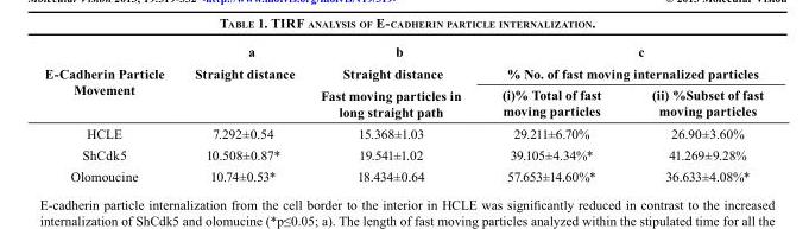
<table><thead><tr><td rowspan="2">E-Cadherin Particle Movement</td><td rowspan="2">a Straight distance</td><td rowspan="2">b Straight distance Fast moving particles in long straight path</td><td colspan="2">c % No. of fast moving internalized particles</td></tr><tr><td>(i)% Total of fast moving particles</td><td>(ii) %Subset of fast moving particles</td></tr></thead><tbody><tr><td>HCLE</td><td>7.292±0.54</td><td>15.368±1.03</td><td>29.211±6.70%</td><td>26.90±3.60%</td></tr><tr><td>ShCdk5</td><td>10.508±0.87*</td><td>19.541±1.02</td><td>39.105±4.34%*</td><td>41.269±9.28%</td></tr><tr><td>Olomoucine</td><td>10.74±0.53*</td><td>18.434±0.64</td><td>57.653±14.60%*</td><td>36.633±4.08%*</td></tr></tbody></table>